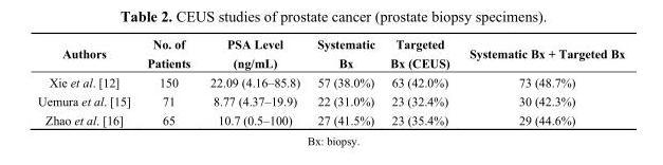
<table><thead><tr><td>Authors</td><td>No. of Patients</td><td>PSA Level (ng/mL)</td><td>Systematic Bx</td><td>Targeted Bx (CEUS)</td><td>Systematic Bx + Targeted Bx</td></tr></thead><tbody><tr><td>Xie et al. [12]</td><td>150</td><td>22.09 (4.16–85.8)</td><td>57 (38.0%)</td><td>63 (42.0%)</td><td>73 (48.7%)</td></tr><tr><td>Uemura et al. [15]</td><td>71</td><td>8.77 (4.37–19.9)</td><td>22 (31.0%)</td><td>23 (32.4%)</td><td>30 (42.3%)</td></tr><tr><td>Zhao et al. [16]</td><td>65</td><td>10.7 (0.5–100)</td><td>27 (41.5%)</td><td>23 (35.4%)</td><td>29 (44.6%)</td></tr></tbody></table>